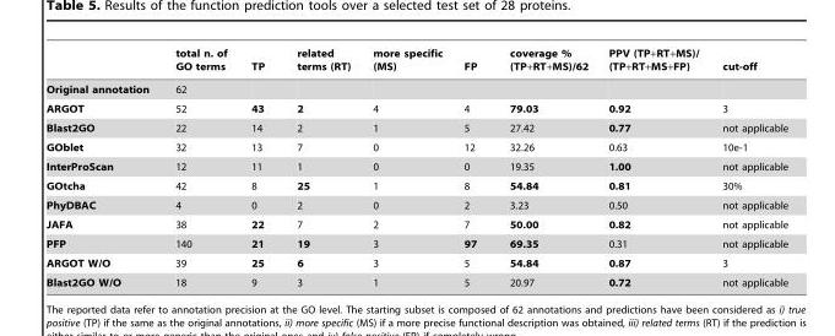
<table><thead><tr><td></td><td>total n. of GO terms</td><td>TP</td><td>related terms (RT)</td><td>more specific (MS)</td><td>FP</td><td>coverage % (TP+RT+MS)/62</td><td>PPV (TP+RT+MS)/ (TP+RT+MS+FP)</td><td>cut-off</td></tr></thead><tbody><tr><td>Original annotation</td><td>62</td><td></td><td></td><td></td><td></td><td></td><td></td><td></td></tr><tr><td>ARGOT</td><td>52</td><td>43</td><td>2</td><td>4</td><td>4</td><td>79.03</td><td>0.92</td><td>3</td></tr><tr><td>Blast2GO</td><td>22</td><td>14</td><td>2</td><td>1</td><td>5</td><td>27.42</td><td>0.77</td><td>not applicable</td></tr><tr><td>GOblet</td><td>32</td><td>13</td><td>7</td><td>0</td><td>12</td><td>32.26</td><td>0.63</td><td>10e-1</td></tr><tr><td>InterProScan</td><td>12</td><td>11</td><td>1</td><td>0</td><td>0</td><td>19.35</td><td>1.00</td><td>not applicable</td></tr><tr><td>GOtcha</td><td>42</td><td>8</td><td>25</td><td>1</td><td>8</td><td>54.84</td><td>0.81</td><td>30%</td></tr><tr><td>PhyDBAC</td><td>4</td><td>0</td><td>2</td><td>0</td><td>2</td><td>3.23</td><td>0.50</td><td>not applicable</td></tr><tr><td>JAFA</td><td>38</td><td>22</td><td>7</td><td>2</td><td>7</td><td>50.00</td><td>0.82</td><td>not applicable</td></tr><tr><td>PFP</td><td>140</td><td>21</td><td>19</td><td>3</td><td>97</td><td>69.35</td><td>0.31</td><td>not applicable</td></tr><tr><td>ARGOT W/O</td><td>39</td><td>25</td><td>6</td><td>3</td><td>5</td><td>54.84</td><td>0.87</td><td>3</td></tr><tr><td>Blast2GO W/O</td><td>18</td><td>9</td><td>3</td><td>1</td><td>5</td><td>20.97</td><td>0.72</td><td>not applicable</td></tr></tbody></table>